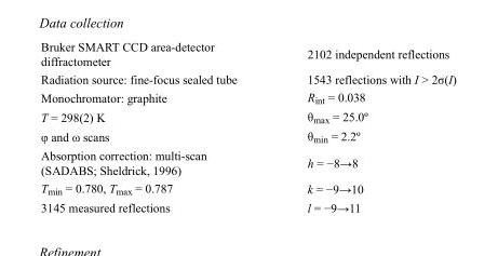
<table><tbody><tr><td>Bruker SMART CCD area-detector diffractometer</td><td>2102 independent reflections</td></tr><tr><td>Radiation source: fine-focus sealed tube</td><td>1543 reflections with I &gt; 2σ(I)</td></tr><tr><td>Monochromator: graphite</td><td>R<sub>int</sub> = 0.038</td></tr><tr><td>T = 298(2) K</td><td>θ<sub>max</sub> = 25.0º</td></tr><tr><td>φ and ω scans</td><td>θ<sub>min</sub> = 2.2º</td></tr><tr><td>Absorption correction: multi-scan (SADABS; Sheldrick, 1996)</td><td>h = −8→8</td></tr><tr><td>T<sub>min</sub> = 0.780, T<sub>max</sub> = 0.787</td><td>k = −9→10</td></tr><tr><td>3145 measured reflections</td><td>l = −9→11</td></tr></tbody></table>